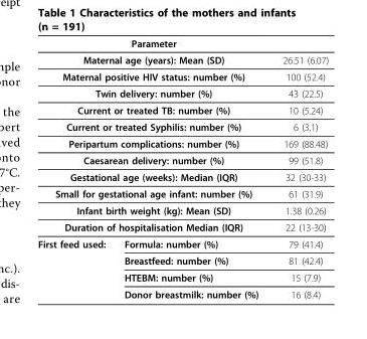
<table><thead><tr><td colspan="2">Parameter</td><td></td></tr></thead><tbody><tr><td colspan="2">Maternal age (years): Mean (SD)</td><td>26.51 (6.07)</td></tr><tr><td colspan="2">Maternal positive HIV status: number (%)</td><td>100 (52.4)</td></tr><tr><td colspan="2">Twin delivery: number (%)</td><td>43 (22.5)</td></tr><tr><td colspan="2">Current or treated TB: number (%)</td><td>10 (5.24)</td></tr><tr><td colspan="2">Current or treated Syphilis: number (%)</td><td>6 (3.1)</td></tr><tr><td colspan="2">Peripartum complications: number (%)</td><td>169 (88.48)</td></tr><tr><td colspan="2">Caesarean delivery: number (%)</td><td>99 (51.8)</td></tr><tr><td colspan="2">Gestational age (weeks): Median (IQR)</td><td>32 (30-33)</td></tr><tr><td colspan="2">Small for gestational age infant: number (%)</td><td>61 (31.9)</td></tr><tr><td colspan="2">Infant birth weight (kg): Mean (SD)</td><td>1.38 (0.26)</td></tr><tr><td colspan="2">Duration of hospitalisation Median (IQR)</td><td>22 (13-30)</td></tr><tr><td rowspan="4">First feed used:</td><td>Formula: number (%)</td><td>79 (41.4)</td></tr><tr><td>Breastfeed: number (%)</td><td>81 (42.4)</td></tr><tr><td>HTEBM: number (%)</td><td>15 (7.9)</td></tr><tr><td>Donor breastmilk: number (%)</td><td>16 (8.4)</td></tr></tbody></table>